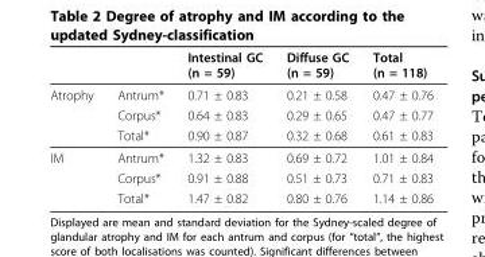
<table><thead><tr><td></td><td></td><td>Intestinal GC (n = 59)</td><td>Diffuse GC (n = 59)</td><td>Total (n = 118)</td></tr></thead><tbody><tr><td rowspan="3">Atrophy</td><td>Antrum*</td><td>0.71 ± 0.83</td><td>0.21 ± 0.58</td><td>0.47 ± 0.76</td></tr><tr><td>Corpus*</td><td>0.64 ± 0.83</td><td>0.29 ± 0.65</td><td>0.47 ± 0.77</td></tr><tr><td>Total*</td><td>0.90 ± 0.87</td><td>0.32 ± 0.68</td><td>0.61 ± 0.83</td></tr><tr><td rowspan="3">IM</td><td>Antrum*</td><td>1.32 ± 0.83</td><td>0.69 ± 0.72</td><td>1.01 ± 0.84</td></tr><tr><td>Corpus*</td><td>0.91 ± 0.88</td><td>0.51 ± 0.73</td><td>0.71 ± 0.83</td></tr><tr><td>Total*</td><td>1.47 ± 0.82</td><td>0.80 ± 0.76</td><td>1.14 ± 0.86</td></tr></tbody></table>